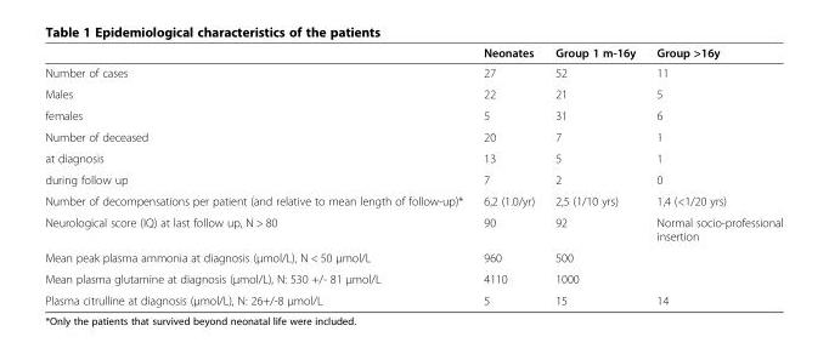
<table><thead><tr><td></td><td>Neonates</td><td>Group 1 m-16y</td><td>Group &gt;16y</td></tr></thead><tbody><tr><td>Number of cases</td><td>27</td><td>52</td><td>11</td></tr><tr><td>Males</td><td>22</td><td>21</td><td>5</td></tr><tr><td>females</td><td>5</td><td>31</td><td>6</td></tr><tr><td>Number of deceased</td><td>20</td><td>7</td><td>1</td></tr><tr><td>at diagnosis</td><td>13</td><td>5</td><td>1</td></tr><tr><td>during follow up</td><td>7</td><td>2</td><td>0</td></tr><tr><td>Number of decompensations per patient (and relative to mean length of follow-up)*</td><td>6,2 (1.0/yr)</td><td>2,5 (1/10 yrs)</td><td>1,4 (&lt;1/20 yrs)</td></tr><tr><td>Neurological score (IQ) at last follow up, N &gt; 80</td><td>90</td><td>92</td><td>Normal socio-professional insertion</td></tr><tr><td>Mean peak plasma ammonia at diagnosis (μmol/L), N &lt; 50 μmol/L</td><td>960</td><td>500</td><td></td></tr><tr><td>Mean plasma glutamine at diagnosis (μmol/L), N: 530 +/- 81 μmol/L</td><td>4110</td><td>1000</td><td></td></tr><tr><td>Plasma citrulline at diagnosis (μmol/L), N: 26+/-8 μmol/L</td><td>5</td><td>15</td><td>14</td></tr></tbody></table>